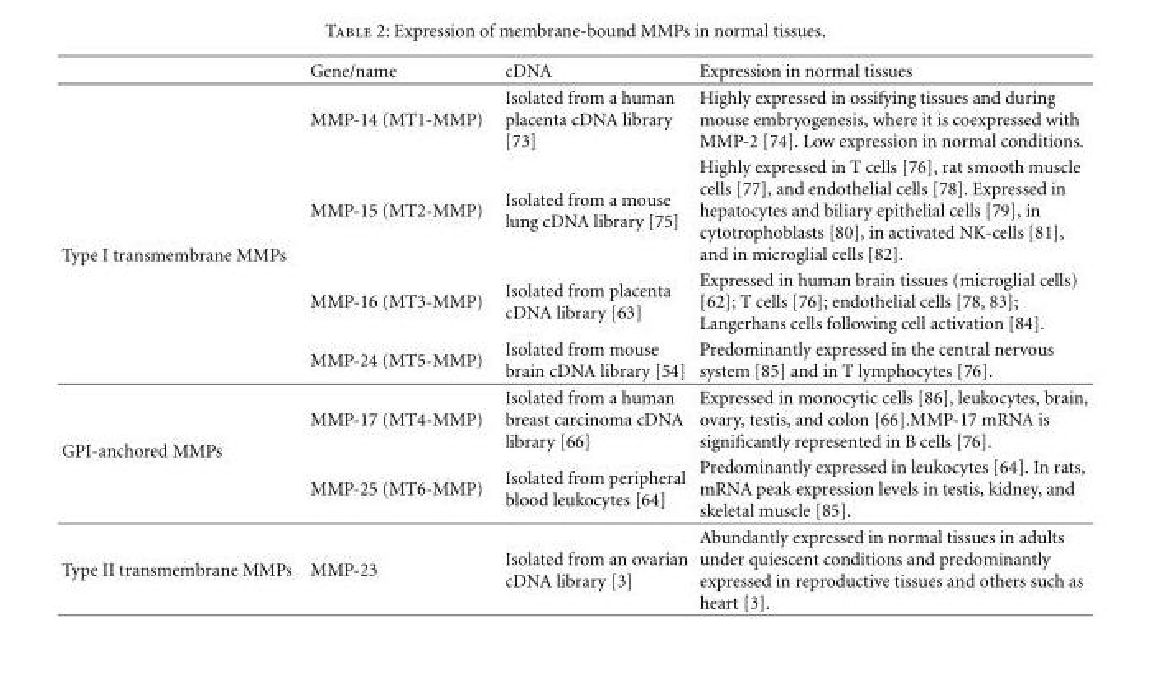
<table><thead><tr><td></td><td>Gene/name</td><td>cDNA</td><td>Expression in normal tissues</td></tr></thead><tbody><tr><td></td><td>MMP-14 (MT1-MMP)</td><td>Isolated from a human placenta cDNA library [73]</td><td>Highly expressed in ossifying tissues and during mouse embryogenesis, where it is coexpressed with MMP-2 [74]. Low expression in normal conditions.</td></tr><tr><td rowspan="3">Type I transmembrane MMPs</td><td>MMP-15 (MT2-MMP)</td><td>Isolated from a mouse lung cDNA library [75]</td><td>Highly expressed in T cells [76], rat smooth muscle cells [77], and endothelial cells [78]. Expressed in hepatocytes and biliary epithelial cells [79], in cytotrophoblasts [80], in activated NK-cells [81], and in microglial cells [82].</td></tr><tr><td>MMP-16 (MT3-MMP)</td><td>Isolated from placenta cDNA library [63]</td><td>Expressed in human brain tissues (microglial cells) [62]; T cells [76]; endothelial cells [78, 83]; Langerhans cells following cell activation [84].</td></tr><tr><td>MMP-24 (MT5-MMP)</td><td>Isolated from mouse brain cDNA library [54]</td><td>Predominantly expressed in the central nervous system [85] and in T lymphocytes [76].</td></tr><tr><td rowspan="2">GPI-anchored MMPs</td><td>MMP-17 (MT4-MMP)</td><td>Isolated from a human breast carcinoma cDNA library [66]</td><td>Expressed in monocytic cells [86], leukocytes, brain, ovary, testis, and colon [66].MMP-17 mRNA is significantly represented in B cells [76].</td></tr><tr><td>MMP-25 (MT6-MMP)</td><td>Isolated from peripheral blood leukocytes [64]</td><td>Predominantly expressed in leukocytes [64]. In rats, mRNA peak expression levels in testis, kidney, and skeletal muscle [85].</td></tr><tr><td>Type II transmembrane MMPs</td><td>MMP-23</td><td>Isolated from an ovarian cDNA library [3]</td><td>Abundantly expressed in normal tissues in adults under quiescent conditions and predominantly expressed in reproductive tissues and others such as heart [3].</td></tr></tbody></table>